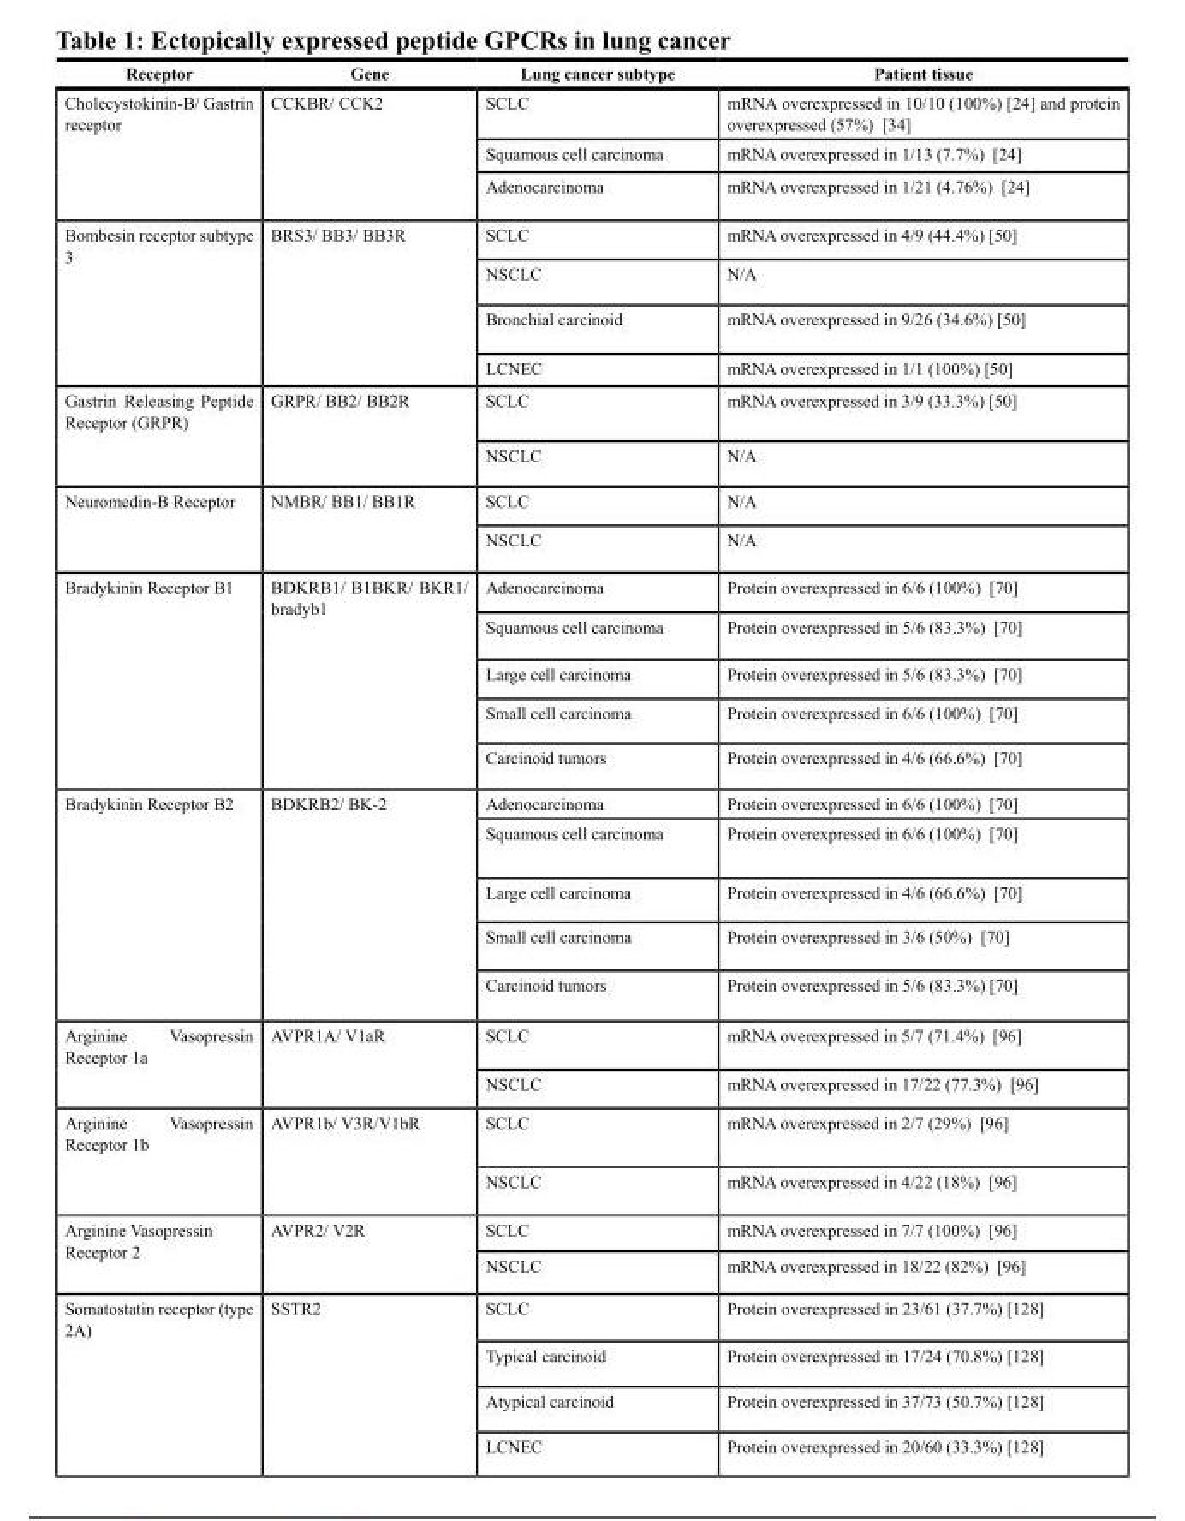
<table><thead><tr><td>Receptor</td><td>Gene</td><td>Lung cancer subtype</td><td>Patient tissue</td></tr></thead><tbody><tr><td rowspan="3">Cholecystokinin-B/ Gastrin receptor</td><td rowspan="3">CCKBR/ CCK2</td><td>SCLC</td><td>mRNA overexpressed in 10/10 (100%) [24] and protein overexpressed (57%) [34]</td></tr><tr><td>Squamous cell carcinoma</td><td>mRNA overexpressed in 1/13 (7.7%) [24]</td></tr><tr><td>Adenocarcinoma</td><td>mRNA overexpressed in 1/21 (4.76%) [24]</td></tr><tr><td rowspan="4">Bombesin receptor subtype 3</td><td rowspan="4">BRS3/ BB3/ BB3R</td><td>SCLC</td><td>mRNA overexpressed in 4/9 (44.4%) [50]</td></tr><tr><td>NSCLC</td><td>N/A</td></tr><tr><td>Bronchial carcinoid</td><td>mRNA overexpressed in 9/26 (34.6%) [50]</td></tr><tr><td>LCNEC</td><td>mRNA overexpressed in 1/1 (100%) [50]</td></tr><tr><td rowspan="2">Gastrin Releasing Peptide Receptor (GRPR)</td><td rowspan="2">GRPR/ BB2/ BB2R</td><td>SCLC</td><td>mRNA overexpressed in 3/9 (33.3%) [50]</td></tr><tr><td>NSCLC</td><td>N/A</td></tr><tr><td rowspan="2">Neuromedin-B Receptor</td><td rowspan="2">NMBR/ BB1/ BB1R</td><td>SCLC</td><td>N/A</td></tr><tr><td>NSCLC</td><td>N/A</td></tr><tr><td rowspan="5">Bradykinin Receptor B1</td><td rowspan="5">BDKRB1/ B1BKR/ BKR1/ bradyb1</td><td>Adenocarcinoma</td><td>Protein overexpressed in 6/6 (100%) [70]</td></tr><tr><td>Squamous cell carcinoma</td><td>Protein overexpressed in 5/6 (83.3%) [70]</td></tr><tr><td>Large cell carcinoma</td><td>Protein overexpressed in 5/6 (83.3%) [70]</td></tr><tr><td>Small cell carcinoma</td><td>Protein overexpressed in 6/6 (100%) [70]</td></tr><tr><td>Carcinoid tumors</td><td>Protein overexpressed in 4/6 (66.6%) [70]</td></tr><tr><td rowspan="5">Bradykinin Receptor B2</td><td rowspan="5">BDKRB2/ BK-2</td><td>Adenocarcinoma</td><td>Protein overexpressed in 6/6 (100%) [70]</td></tr><tr><td>Squamous cell carcinoma</td><td>Protein overexpressed in 6/6 (100%) [70]</td></tr><tr><td>Large cell carcinoma</td><td>Protein overexpressed in 4/6 (66.6%) [70]</td></tr><tr><td>Small cell carcinoma</td><td>Protein overexpressed in 3/6 (50%) [70]</td></tr><tr><td>Carcinoid tumors</td><td>Protein overexpressed in 5/6 (83.3%) [70]</td></tr><tr><td rowspan="2">Arginine Vasopressin Receptor 1a</td><td rowspan="2">AVPR1A/ V1aR</td><td>SCLC</td><td>mRNA overexpressed in 5/7 (71.4%) [96]</td></tr><tr><td>NSCLC</td><td>mRNA overexpressed in 17/22 (77.3%) [96]</td></tr><tr><td rowspan="2">Arginine Vasopressin Receptor 1b</td><td rowspan="2">AVPR1b/ V3R/V1bR</td><td>SCLC</td><td>mRNA overexpressed in 2/7 (29%) [96]</td></tr><tr><td>NSCLC</td><td>mRNA overexpressed in 4/22 (18%) [96]</td></tr><tr><td rowspan="2">Arginine Vasopressin Receptor 2</td><td rowspan="2">AVPR2/ V2R</td><td>SCLC</td><td>mRNA overexpressed in 7/7 (100%) [96]</td></tr><tr><td>NSCLC</td><td>mRNA overexpressed in 18/22 (82%) [96]</td></tr><tr><td rowspan="4">Somatostatin receptor (type 2A)</td><td rowspan="4">SSTR2</td><td>SCLC</td><td>Protein overexpressed in 23/61 (37.7%) [128]</td></tr><tr><td>Typical carcinoid</td><td>Protein overexpressed in 17/24 (70.8%) [128]</td></tr><tr><td>Atypical carcinoid</td><td>Protein overexpressed in 37/73 (50.7%) [128]</td></tr><tr><td>LCNEC</td><td>Protein overexpressed in 20/60 (33.3%) [128]</td></tr></tbody></table>